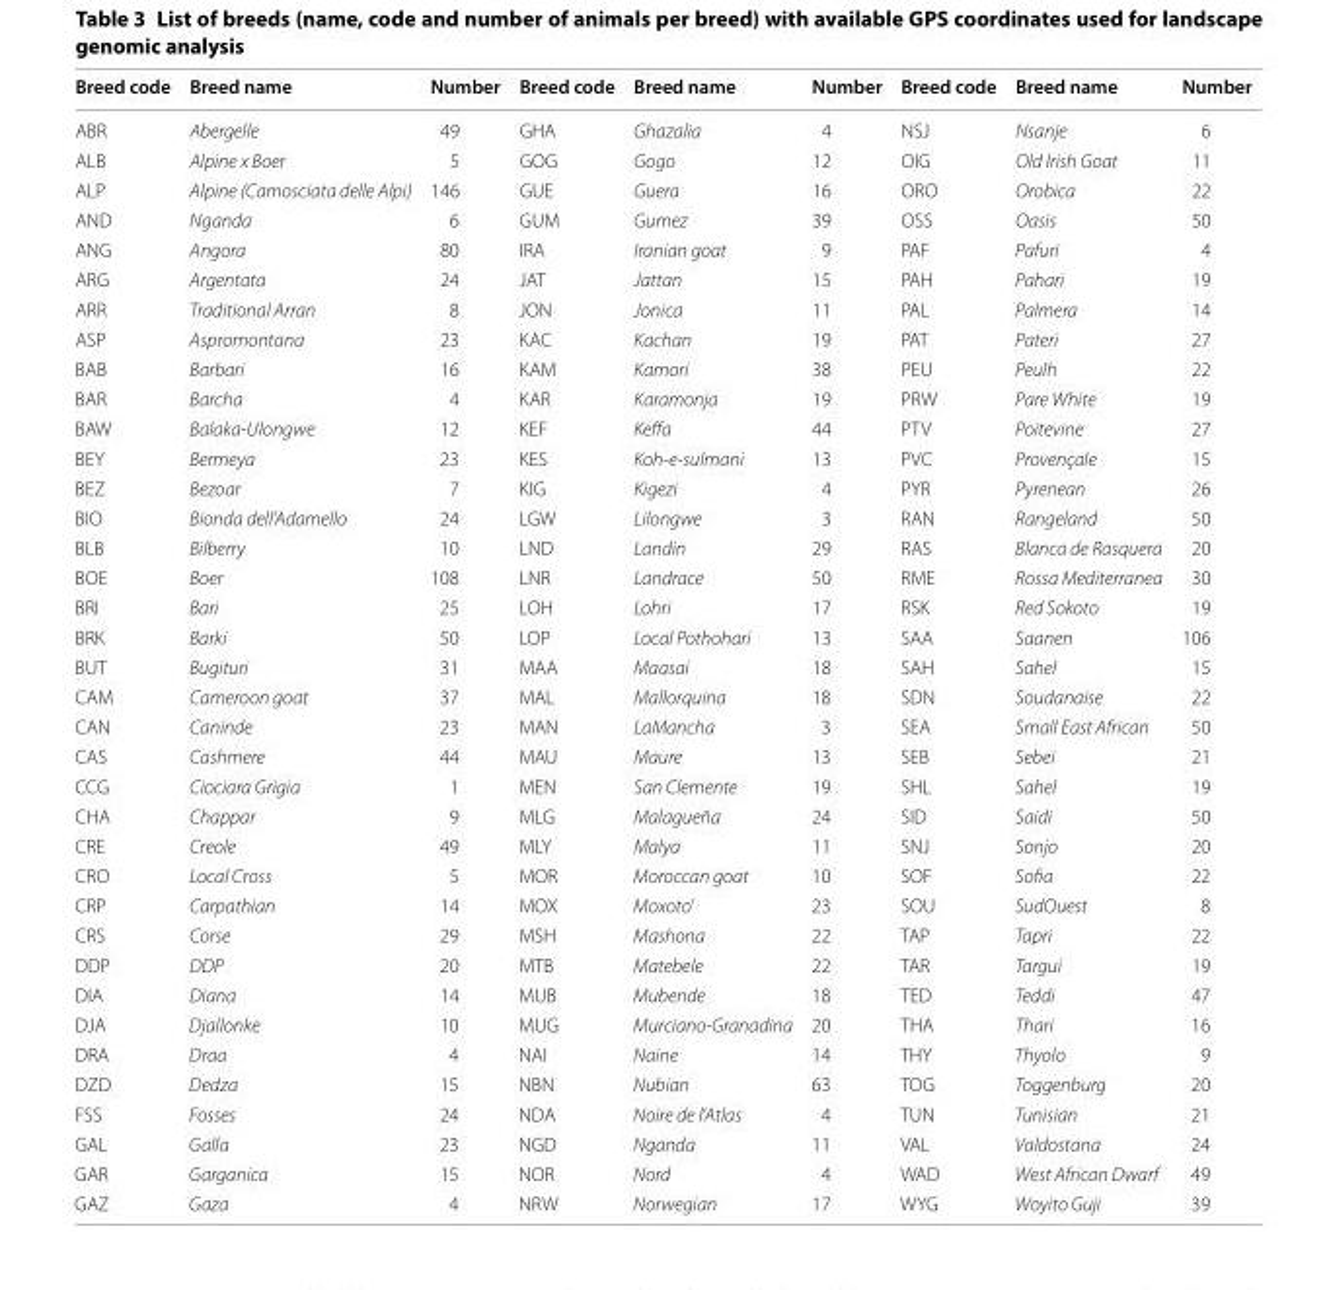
<table><thead><tr><td>Breed code</td><td>Breed name</td><td>Number</td><td>Breed code</td><td>Breed name</td><td>Number</td><td>Breed code</td><td>Breed name</td><td>Number</td></tr></thead><tbody><tr><td>ABR</td><td>Abergelle</td><td>49</td><td>GHA</td><td>Ghazalia</td><td>4</td><td>NSJ</td><td>Nsanje</td><td>6</td></tr><tr><td>ALB</td><td>Alpine x Boer</td><td>5</td><td>GOG</td><td>Gogo</td><td>12</td><td>OIG</td><td>Old Irish Goat</td><td>11</td></tr><tr><td>ALP</td><td>Alpine (Camosciata delle Alpi)</td><td>146</td><td>GUE</td><td>Guera</td><td>16</td><td>ORO</td><td>Orobica</td><td>22</td></tr><tr><td>AND</td><td>Nganda</td><td>6</td><td>GUM</td><td>Gumez</td><td>39</td><td>OSS</td><td>Oasis</td><td>50</td></tr><tr><td>ANG</td><td>Angora</td><td>80</td><td>IRA</td><td>Iranian goat</td><td>9</td><td>PAF</td><td>Pafuri</td><td>4</td></tr><tr><td>ARG</td><td>Argentata</td><td>24</td><td>JAT</td><td>Jattan</td><td>15</td><td>PAH</td><td>Pahari</td><td>19</td></tr><tr><td>ARR</td><td>Traditional Arran</td><td>8</td><td>JON</td><td>Jonica</td><td>11</td><td>PAL</td><td>Palmera</td><td>14</td></tr><tr><td>ASP</td><td>Aspromontana</td><td>23</td><td>KAC</td><td>Kachan</td><td>19</td><td>PAT</td><td>Pateri</td><td>27</td></tr><tr><td>BAB</td><td>Barbari</td><td>16</td><td>KAM</td><td>Kamori</td><td>38</td><td>PEU</td><td>Peulh</td><td>22</td></tr><tr><td>BAR</td><td>Barcha</td><td>4</td><td>KAR</td><td>Karamonja</td><td>19</td><td>PRW</td><td>Pare White</td><td>19</td></tr><tr><td>BAW</td><td>Balaka‑Ulongwe</td><td>12</td><td>KEF</td><td>Keffa</td><td>44</td><td>PTV</td><td>Poitevine</td><td>27</td></tr><tr><td>BEY</td><td>Bermeya</td><td>23</td><td>KES</td><td>Koh‑e‑sulmani</td><td>13</td><td>PVC</td><td>Provençale</td><td>15</td></tr><tr><td>BEZ</td><td>Bezoar</td><td>7</td><td>KIG</td><td>Kigezi</td><td>4</td><td>PYR</td><td>Pyrenean</td><td>26</td></tr><tr><td>BIO</td><td>Bionda dell’Adamello</td><td>24</td><td>LGW</td><td>Lilongwe</td><td>3</td><td>RAN</td><td>Rangeland</td><td>50</td></tr><tr><td>BLB</td><td>Bilberry</td><td>10</td><td>LND</td><td>Landin</td><td>29</td><td>RAS</td><td>Blanca de Rasquera</td><td>20</td></tr><tr><td>BOE</td><td>Boer</td><td>108</td><td>LNR</td><td>Landrace</td><td>50</td><td>RME</td><td>Rossa Mediterranea</td><td>30</td></tr><tr><td>BRI</td><td>Bari</td><td>25</td><td>LOH</td><td>Lohri</td><td>17</td><td>RSK</td><td>Red Sokoto</td><td>19</td></tr><tr><td>BRK</td><td>Barki</td><td>50</td><td>LOP</td><td>Local Pothohari</td><td>13</td><td>SAA</td><td>Saanen</td><td>106</td></tr><tr><td>BUT</td><td>Bugituri</td><td>31</td><td>MAA</td><td>Maasai</td><td>18</td><td>SAH</td><td>Sahel</td><td>15</td></tr><tr><td>CAM</td><td>Cameroon goat</td><td>37</td><td>MAL</td><td>Mallorquina</td><td>18</td><td>SDN</td><td>Soudanaise</td><td>22</td></tr><tr><td>CAN</td><td>Caninde</td><td>23</td><td>MAN</td><td>LaMancha</td><td>3</td><td>SEA</td><td>Small East African</td><td>50</td></tr><tr><td>CAS</td><td>Cashmere</td><td>44</td><td>MAU</td><td>Maure</td><td>13</td><td>SEB</td><td>Sebei</td><td>21</td></tr><tr><td>CCG</td><td>Ciociara Grigia</td><td>1</td><td>MEN</td><td>San Clemente</td><td>19</td><td>SHL</td><td>Sahel</td><td>19</td></tr><tr><td>CHA</td><td>Chappar</td><td>9</td><td>MLG</td><td>Malagueña</td><td>24</td><td>SID</td><td>Saidi</td><td>50</td></tr><tr><td>CRE</td><td>Creole</td><td>49</td><td>MLY</td><td>Malya</td><td>11</td><td>SNJ</td><td>Sonjo</td><td>20</td></tr><tr><td>CRO</td><td>Local Cross</td><td>5</td><td>MOR</td><td>Moroccan goat</td><td>10</td><td>SOF</td><td>Sofia</td><td>22</td></tr><tr><td>CRP</td><td>Carpathian</td><td>14</td><td>MOX</td><td>Moxoto’</td><td>23</td><td>SOU</td><td>SudOuest</td><td>8</td></tr><tr><td>CRS</td><td>Corse</td><td>29</td><td>MSH</td><td>Mashona</td><td>22</td><td>TAP</td><td>Tapri</td><td>22</td></tr><tr><td>DDP</td><td>DDP</td><td>20</td><td>MTB</td><td>Matebele</td><td>22</td><td>TAR</td><td>Targui</td><td>19</td></tr><tr><td>DIA</td><td>Diana</td><td>14</td><td>MUB</td><td>Mubende</td><td>18</td><td>TED</td><td>Teddi</td><td>47</td></tr><tr><td>DJA</td><td>Djallonke</td><td>10</td><td>MUG</td><td>Murciano‑Granadina</td><td>20</td><td>THA</td><td>Thari</td><td>16</td></tr><tr><td>DRA</td><td>Draa</td><td>4</td><td>NAI</td><td>Naine</td><td>14</td><td>THY</td><td>Thyolo</td><td>9</td></tr><tr><td>DZD</td><td>Dedza</td><td>15</td><td>NBN</td><td>Nubian</td><td>63</td><td>TOG</td><td>Toggenburg</td><td>20</td></tr><tr><td>FSS</td><td>Fosses</td><td>24</td><td>NDA</td><td>Noire de l’Atlas</td><td>4</td><td>TUN</td><td>Tunisian</td><td>21</td></tr><tr><td>GAL</td><td>Galla</td><td>23</td><td>NGD</td><td>Nganda</td><td>11</td><td>VAL</td><td>Valdostana</td><td>24</td></tr><tr><td>GAR</td><td>Garganica</td><td>15</td><td>NOR</td><td>Nord</td><td>4</td><td>WAD</td><td>West African Dwarf</td><td>49</td></tr><tr><td>GAZ</td><td>Gaza</td><td>4</td><td>NRW</td><td>Norwegian</td><td>17</td><td>WYG</td><td>Woyito Guji</td><td>39</td></tr></tbody></table>